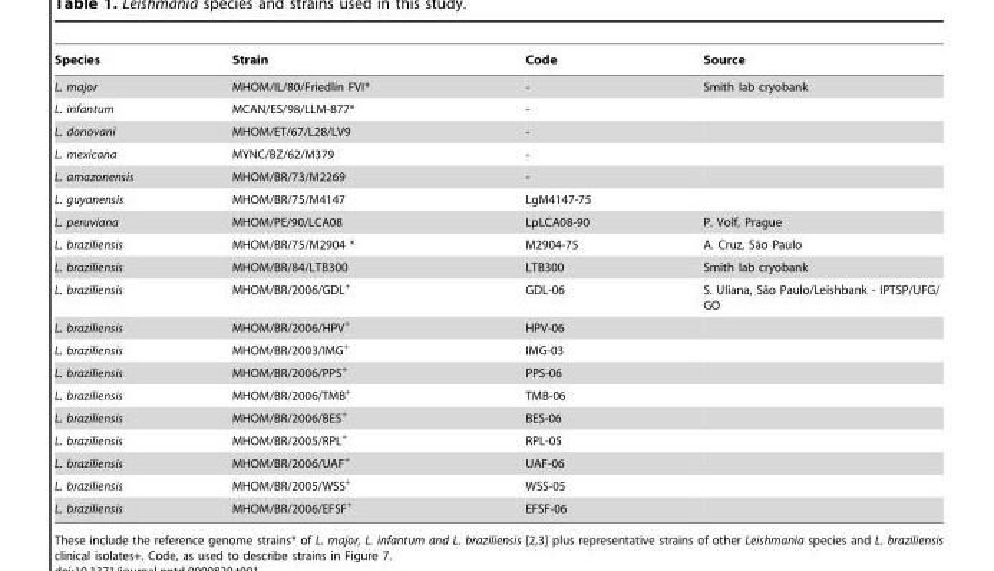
<table><thead><tr><td>Species</td><td>Strain</td><td>Code</td><td>Source</td></tr></thead><tbody><tr><td>L. major</td><td>MHOM/IL/80/Friedlin FVI*</td><td>-</td><td>Smith lab cryobank</td></tr><tr><td>L. infantum</td><td>MCAN/ES/98/LLM-877*</td><td>-</td><td></td></tr><tr><td>L. donovani</td><td>MHOM/ET/67/L28/LV9</td><td>-</td><td></td></tr><tr><td>L. mexicana</td><td>MYNC/BZ/62/M379</td><td>-</td><td></td></tr><tr><td>L. amazonensis</td><td>MHOM/BR/73/M2269</td><td>-</td><td></td></tr><tr><td>L. guyanensis</td><td>MHOM/BR/75/M4147</td><td>LgM4147-75</td><td></td></tr><tr><td>L. peruviana</td><td>MHOM/PE/90/LCA08</td><td>LpLCA08-90</td><td>P. Volf, Prague</td></tr><tr><td>L. braziliensis</td><td>MHOM/BR/75/M2904 *</td><td>M2904-75</td><td>A. Cruz, Sa˜o Paulo</td></tr><tr><td>L. braziliensis</td><td>MHOM/BR/84/LTB300</td><td>LTB300</td><td>Smith lab cryobank</td></tr><tr><td>L. braziliensis</td><td>MHOM/BR/2006/GDL<sup>+</sup></td><td>GDL-06</td><td>S. Uliana, Sa˜o Paulo/Leishbank - IPTSP/UFG/ GO</td></tr><tr><td>L. braziliensis</td><td>MHOM/BR/2006/HPV<sup>+</sup></td><td>HPV-06</td><td></td></tr><tr><td>L. braziliensis</td><td>MHOM/BR/2003/IMG<sup>+</sup></td><td>IMG-03</td><td></td></tr><tr><td>L. braziliensis</td><td>MHOM/BR/2006/PPS<sup>+</sup></td><td>PPS-06</td><td></td></tr><tr><td>L. braziliensis</td><td>MHOM/BR/2006/TMB<sup>+</sup></td><td>TMB-06</td><td></td></tr><tr><td>L. braziliensis</td><td>MHOM/BR/2006/BES<sup>+</sup></td><td>BES-06</td><td></td></tr><tr><td>L. braziliensis</td><td>MHOM/BR/2005/RPL<sup>+</sup></td><td>RPL-05</td><td></td></tr><tr><td>L. braziliensis</td><td>MHOM/BR/2006/UAF<sup>+</sup></td><td>UAF-06</td><td></td></tr><tr><td>L. braziliensis</td><td>MHOM/BR/2005/WSS<sup>+</sup></td><td>WSS-05</td><td></td></tr><tr><td>L. braziliensis</td><td>MHOM/BR/2006/EFSF<sup>+</sup></td><td>EFSF-06</td><td></td></tr></tbody></table>